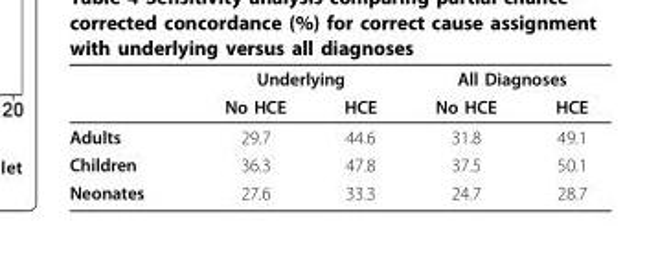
<table><thead><tr><td rowspan="2"></td><td colspan="2">Underlying</td><td colspan="2">All Diagnoses</td></tr><tr><td>No HCE</td><td>HCE</td><td>No HCE</td><td>HCE</td></tr></thead><tbody><tr><td>Adults</td><td>29.7</td><td>44.6</td><td>31.8</td><td>49.1</td></tr><tr><td>Children</td><td>36.3</td><td>47.8</td><td>37.5</td><td>50.1</td></tr><tr><td>Neonates</td><td>27.6</td><td>33.3</td><td>24.7</td><td>28.7</td></tr></tbody></table>